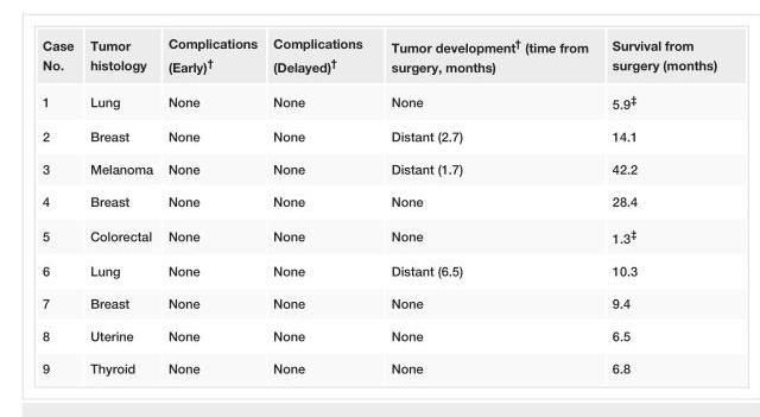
<table><tbody><tr><td>Case No.</td><td>Tumor histology</td><td>Complications (Early)<sup>†</sup></td><td>Complications (Delayed)<sup>†</sup></td><td>Tumor development<sup>†</sup> (time from surgery, months)</td><td>Survival from surgery (months)</td></tr><tr><td>1</td><td>Lung</td><td>None</td><td>None</td><td>None</td><td>5.9<sup>‡</sup></td></tr><tr><td>2</td><td>Breast</td><td>None</td><td>None</td><td>Distant (2.7)</td><td>14.1</td></tr><tr><td>3</td><td>Melanoma</td><td>None</td><td>None</td><td>Distant (1.7)</td><td>42.2</td></tr><tr><td>4</td><td>Breast</td><td>None</td><td>None</td><td>None</td><td>28.4</td></tr><tr><td>5</td><td>Colorectal</td><td>None</td><td>None</td><td>None</td><td>1.3<sup>‡</sup></td></tr><tr><td>6</td><td>Lung</td><td>None</td><td>None</td><td>Distant (6.5)</td><td>10.3</td></tr><tr><td>7</td><td>Breast</td><td>None</td><td>None</td><td>None</td><td>9.4</td></tr><tr><td>8</td><td>Uterine</td><td>None</td><td>None</td><td>None</td><td>6.5</td></tr><tr><td>9</td><td>Thyroid</td><td>None</td><td>None</td><td>None</td><td>6.8</td></tr></tbody></table>